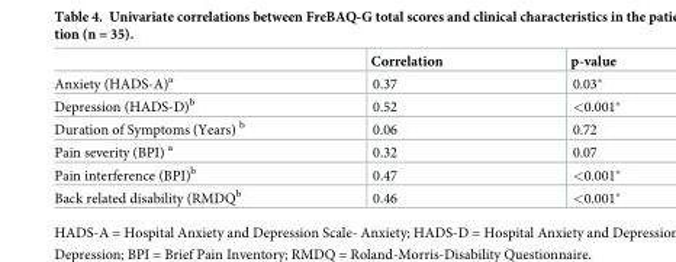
<table><thead><tr><td></td><td>Correlation</td><td>p-value</td></tr></thead><tbody><tr><td>Anxiety (HADS-A)<sup>a</sup></td><td>0.37</td><td>0.03*</td></tr><tr><td>Depression (HADS-D)<sup>b</sup></td><td>0.52</td><td>&lt;0.001*</td></tr><tr><td>Duration of Symptoms (Years) <sup>b</sup></td><td>0.06</td><td>0.72</td></tr><tr><td>Pain severity (BPI) <sup>a</sup></td><td>0.32</td><td>0.07</td></tr><tr><td>Pain interference (BPI)<sup>b</sup></td><td>0.47</td><td>&lt;0.001*</td></tr><tr><td>Back related disability (RMDQ<sup>b</sup></td><td>0.46</td><td>&lt;0.001*</td></tr></tbody></table>